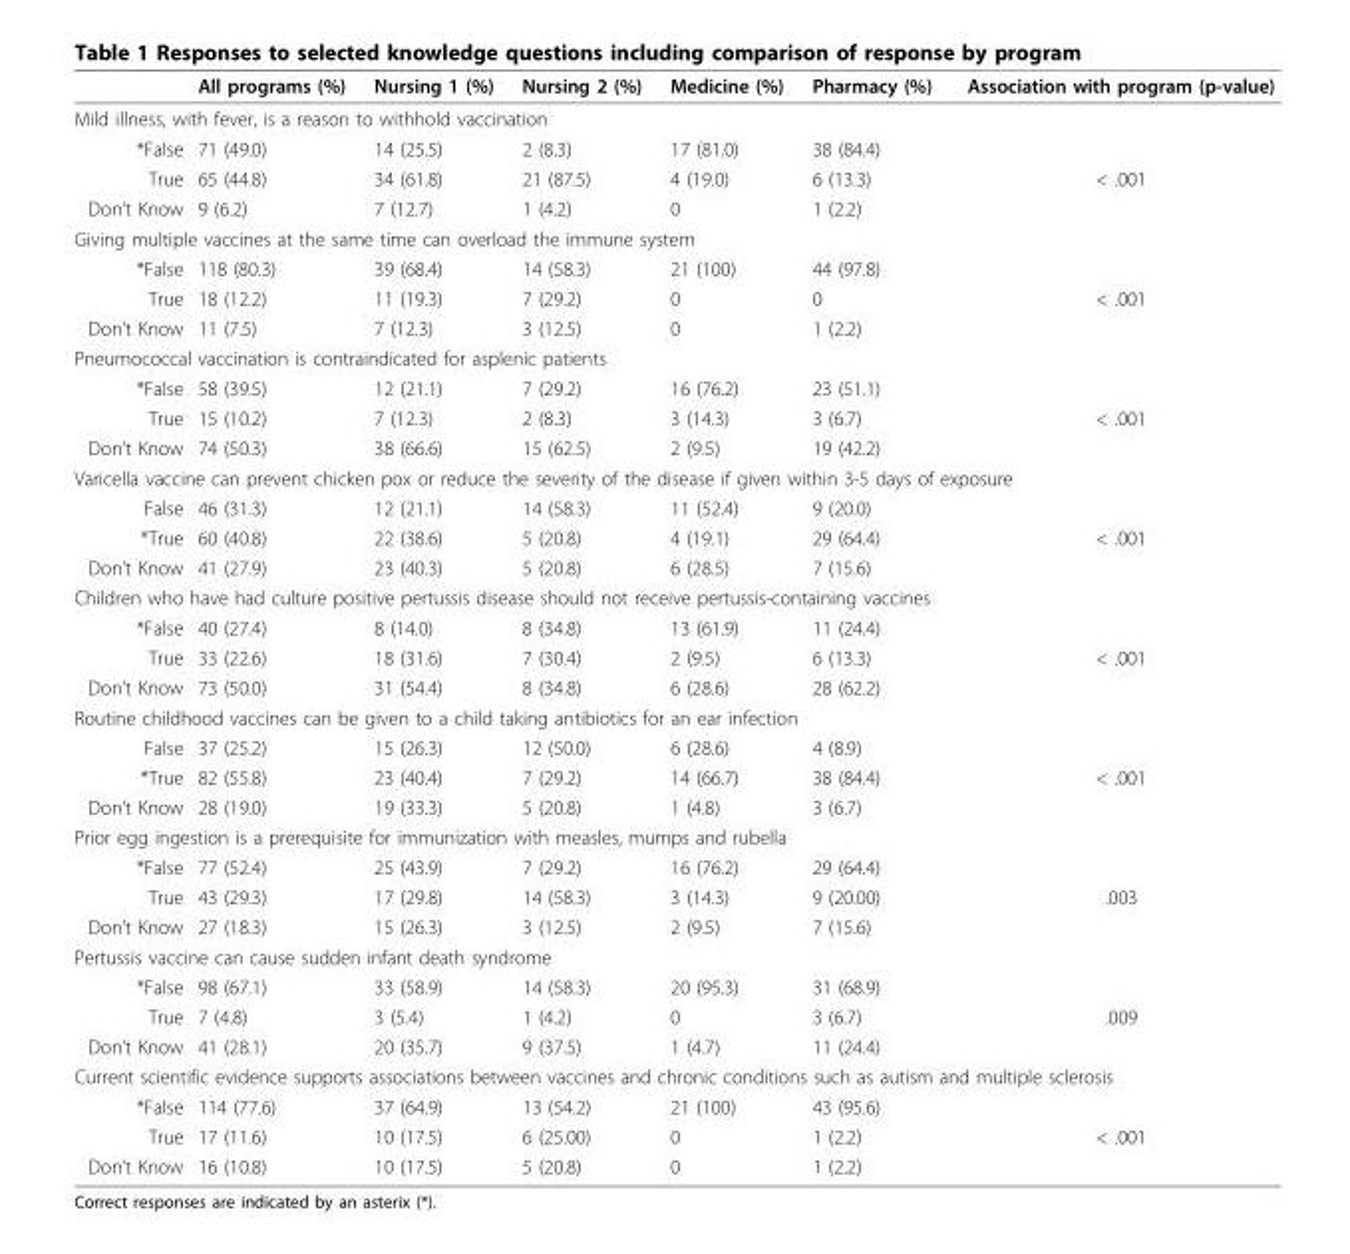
<table><thead><tr><td></td><td>All programs (%)</td><td>Nursing 1 (%)</td><td>Nursing 2 (%)</td><td>Medicine (%)</td><td>Pharmacy (%)</td><td>Association with program (p-value)</td></tr></thead><tbody><tr><td colspan="7">Mild illness, with fever, is a reason to withhold vaccination</td></tr><tr><td>*False</td><td>71 (49.0)</td><td>14 (25.5)</td><td>2 (8.3)</td><td>17 (81.0)</td><td>38 (84.4)</td><td></td></tr><tr><td>True</td><td>65 (44.8)</td><td>34 (61.8)</td><td>21 (87.5)</td><td>4 (19.0)</td><td>6 (13.3)</td><td>&lt; .001</td></tr><tr><td>Don’t Know</td><td>9 (6.2)</td><td>7 (12.7)</td><td>1 (4.2)</td><td>0</td><td>1 (2.2)</td><td></td></tr><tr><td colspan="7">Giving multiple vaccines at the same time can overload the immune system</td></tr><tr><td>*False</td><td>118 (80.3)</td><td>39 (68.4)</td><td>14 (58.3)</td><td>21 (100)</td><td>44 (97.8)</td><td></td></tr><tr><td>True</td><td>18 (12.2)</td><td>11 (19.3)</td><td>7 (29.2)</td><td>0</td><td>0</td><td>&lt; .001</td></tr><tr><td>Don’t Know</td><td>11 (7.5)</td><td>7 (12.3)</td><td>3 (12.5)</td><td>0</td><td>1 (2.2)</td><td></td></tr><tr><td colspan="7">Pneumococcal vaccination is contraindicated for asplenic patients</td></tr><tr><td>*False</td><td>58 (39.5)</td><td>12 (21.1)</td><td>7 (29.2)</td><td>16 (76.2)</td><td>23 (51.1)</td><td></td></tr><tr><td>True</td><td>15 (10.2)</td><td>7 (12.3)</td><td>2 (8.3)</td><td>3 (14.3)</td><td>3 (6.7)</td><td>&lt; .001</td></tr><tr><td>Don’t Know</td><td>74 (50.3)</td><td>38 (66.6)</td><td>15 (62.5)</td><td>2 (9.5)</td><td>19 (42.2)</td><td></td></tr><tr><td colspan="7">Varicella vaccine can prevent chicken pox or reduce the severity of the disease if given within 3-5 days of exposure</td></tr><tr><td>False</td><td>46 (31.3)</td><td>12 (21.1)</td><td>14 (58.3)</td><td>11 (52.4)</td><td>9 (20.0)</td><td></td></tr><tr><td>*True</td><td>60 (40.8)</td><td>22 (38.6)</td><td>5 (20.8)</td><td>4 (19.1)</td><td>29 (64.4)</td><td>&lt; .001</td></tr><tr><td>Don’t Know</td><td>41 (27.9)</td><td>23 (40.3)</td><td>5 (20.8)</td><td>6 (28.5)</td><td>7 (15.6)</td><td></td></tr><tr><td colspan="7">Children who have had culture positive pertussis disease should not receive pertussis-containing vaccines</td></tr><tr><td>*False</td><td>40 (27.4)</td><td>8 (14.0)</td><td>8 (34.8)</td><td>13 (61.9)</td><td>11 (24.4)</td><td></td></tr><tr><td>True</td><td>33 (22.6)</td><td>18 (31.6)</td><td>7 (30.4)</td><td>2 (9.5)</td><td>6 (13.3)</td><td>&lt; .001</td></tr><tr><td>Don’t Know</td><td>73 (50.0)</td><td>31 (54.4)</td><td>8 (34.8)</td><td>6 (28.6)</td><td>28 (62.2)</td><td></td></tr><tr><td colspan="7">Routine childhood vaccines can be given to a child taking antibiotics for an ear infection</td></tr><tr><td>False</td><td>37 (25.2)</td><td>15 (26.3)</td><td>12 (50.0)</td><td>6 (28.6)</td><td>4 (8.9)</td><td></td></tr><tr><td>*True</td><td>82 (55.8)</td><td>23 (40.4)</td><td>7 (29.2)</td><td>14 (66.7)</td><td>38 (84.4)</td><td>&lt; .001</td></tr><tr><td>Don’t Know</td><td>28 (19.0)</td><td>19 (33.3)</td><td>5 (20.8)</td><td>1 (4.8)</td><td>3 (6.7)</td><td></td></tr><tr><td colspan="7">Prior egg ingestion is a prerequisite for immunization with measles, mumps and rubella</td></tr><tr><td>*False</td><td>77 (52.4)</td><td>25 (43.9)</td><td>7 (29.2)</td><td>16 (76.2)</td><td>29 (64.4)</td><td></td></tr><tr><td>True</td><td>43 (29.3)</td><td>17 (29.8)</td><td>14 (58.3)</td><td>3 (14.3)</td><td>9 (20.00)</td><td>.003</td></tr><tr><td>Don’t Know</td><td>27 (18.3)</td><td>15 (26.3)</td><td>3 (12.5)</td><td>2 (9.5)</td><td>7 (15.6)</td><td></td></tr><tr><td colspan="7">Pertussis vaccine can cause sudden infant death syndrome</td></tr><tr><td>*False</td><td>98 (67.1)</td><td>33 (58.9)</td><td>14 (58.3)</td><td>20 (95.3)</td><td>31 (68.9)</td><td></td></tr><tr><td>True</td><td>7 (4.8)</td><td>3 (5.4)</td><td>1 (4.2)</td><td>0</td><td>3 (6.7)</td><td>.009</td></tr><tr><td>Don’t Know</td><td>41 (28.1)</td><td>20 (35.7)</td><td>9 (37.5)</td><td>1 (4.7)</td><td>11 (24.4)</td><td></td></tr><tr><td colspan="7">Current scientific evidence supports associations between vaccines and chronic conditions such as autism and multiple sclerosis</td></tr><tr><td>*False</td><td>114 (77.6)</td><td>37 (64.9)</td><td>13 (54.2)</td><td>21 (100)</td><td>43 (95.6)</td><td></td></tr><tr><td>True</td><td>17 (11.6)</td><td>10 (17.5)</td><td>6 (25.00)</td><td>0</td><td>1 (2.2)</td><td>&lt; .001</td></tr><tr><td>Don’t Know</td><td>16 (10.8)</td><td>10 (17.5)</td><td>5 (20.8)</td><td>0</td><td>1 (2.2)</td><td></td></tr></tbody></table>